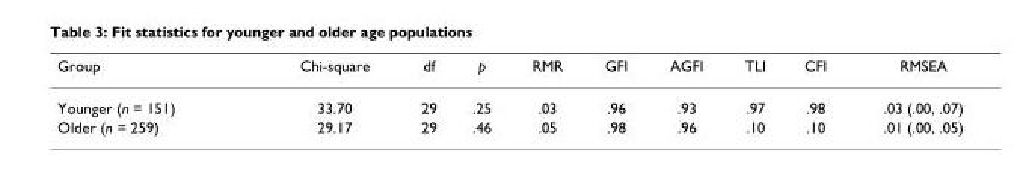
<table><thead><tr><td>Group</td><td>Chi-square</td><td>df</td><td>p</td><td>RMR</td><td>GFI</td><td>AGFI</td><td>TLI</td><td>CFI</td><td>RMSEA</td></tr></thead><tbody><tr><td>Younger (n = 151)</td><td>33.70</td><td>29</td><td>.25</td><td>.03</td><td>.96</td><td>.93</td><td>.97</td><td>.98</td><td>.03 (.00, .07)</td></tr><tr><td>Older (n = 259)</td><td>29.17</td><td>29</td><td>.46</td><td>.05</td><td>.98</td><td>.96</td><td>.10</td><td>.10</td><td>.01 (.00, .05)</td></tr></tbody></table>